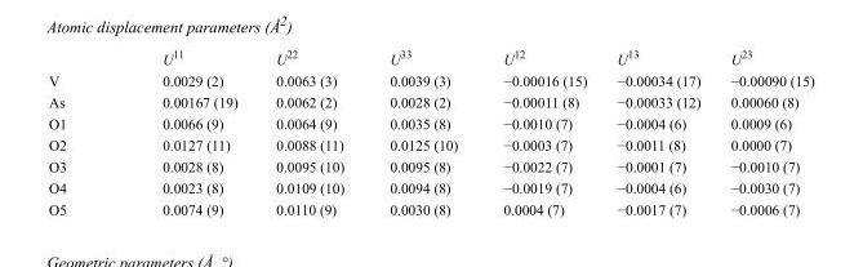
<table><thead><tr><td></td><td>U<sup>11</sup></td><td>U<sup>22</sup></td><td>U<sup>33</sup></td><td>U<sup>12</sup></td><td>U<sup>13</sup></td><td>U<sup>23</sup></td></tr></thead><tbody><tr><td>V</td><td>0.0029 (2)</td><td>0.0063 (3)</td><td>0.0039 (3)</td><td>−0.00016 (15)</td><td>−0.00034 (17)</td><td>−0.00090 (15)</td></tr><tr><td>As</td><td>0.00167 (19)</td><td>0.0062 (2)</td><td>0.0028 (2)</td><td>−0.00011 (8)</td><td>−0.00033 (12)</td><td>0.00060 (8)</td></tr><tr><td>O1</td><td>0.0066 (9)</td><td>0.0064 (9)</td><td>0.0035 (8)</td><td>−0.0010 (7)</td><td>−0.0004 (6)</td><td>0.0009 (6)</td></tr><tr><td>O2</td><td>0.0127 (11)</td><td>0.0088 (11)</td><td>0.0125 (10)</td><td>−0.0003 (7)</td><td>−0.0011 (8)</td><td>0.0000 (7)</td></tr><tr><td>O3</td><td>0.0028 (8)</td><td>0.0095 (10)</td><td>0.0095 (8)</td><td>−0.0022 (7)</td><td>−0.0001 (7)</td><td>−0.0010 (7)</td></tr><tr><td>O4</td><td>0.0023 (8)</td><td>0.0109 (10)</td><td>0.0094 (8)</td><td>−0.0019 (7)</td><td>−0.0004 (6)</td><td>−0.0030 (7)</td></tr><tr><td>O5</td><td>0.0074 (9)</td><td>0.0110 (9)</td><td>0.0030 (8)</td><td>0.0004 (7)</td><td>−0.0017 (7)</td><td>−0.0006 (7)</td></tr></tbody></table>